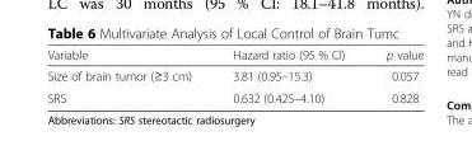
<table><thead><tr><td>Variable</td><td>Hazard ratio (95 % Cl)</td><td>p value</td></tr></thead><tbody><tr><td>Size of brain tumor (≥3 cm)</td><td>3.81 (0.95–15.3)</td><td>0.057</td></tr><tr><td>SRS</td><td>0.632 (0.425–4.10)</td><td>0.828</td></tr></tbody></table>